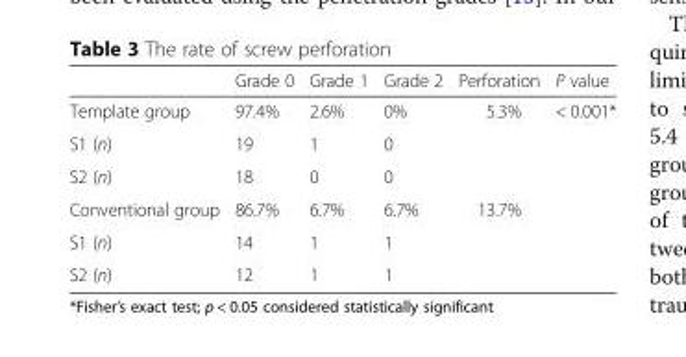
<table><thead><tr><td></td><td>Grade 0</td><td>Grade 1</td><td>Grade 2</td><td>Perforation</td><td>P value</td></tr></thead><tbody><tr><td>Template group</td><td>97.4%</td><td>2.6%</td><td>0%</td><td>5.3%</td><td>&lt; 0.001*</td></tr><tr><td>S1 (n)</td><td>19</td><td>1</td><td>0</td><td></td><td></td></tr><tr><td>S2 (n)</td><td>18</td><td>0</td><td>0</td><td></td><td></td></tr><tr><td>Conventional group</td><td>86.7%</td><td>6.7%</td><td>6.7%</td><td>13.7%</td><td></td></tr><tr><td>S1 (n)</td><td>14</td><td>1</td><td>1</td><td></td><td></td></tr><tr><td>S2 (n)</td><td>12</td><td>1</td><td>1</td><td></td><td></td></tr></tbody></table>